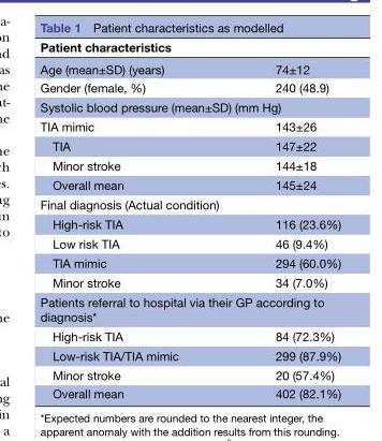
<table><thead><tr><td>Patient characteristics</td><td></td></tr></thead><tbody><tr><td>Age (mean±SD) (years)</td><td>74±12</td></tr><tr><td>Gender (female, %)</td><td>240 (48.9)</td></tr><tr><td colspan="2">Systolic blood pressure (mean±SD) (mm Hg)</td></tr><tr><td>TIA mimic</td><td>143±26</td></tr><tr><td>TIA</td><td>147±22</td></tr><tr><td>Minor stroke</td><td>144±18</td></tr><tr><td>Overall mean</td><td>145±24</td></tr><tr><td colspan="2">Final diagnosis (Actual condition)</td></tr><tr><td>High-risk TIA</td><td>116 (23.6%)</td></tr><tr><td>Low risk TIA</td><td>46 (9.4%)</td></tr><tr><td>TIA mimic</td><td>294 (60.0%)</td></tr><tr><td>Minor stroke</td><td>34 (7.0%)</td></tr><tr><td colspan="2">Patients referral to hospital via their GP according to diagnosis*</td></tr><tr><td>High-risk TIA</td><td>84 (72.3%)</td></tr><tr><td>Low-risk TIA/TIA mimic</td><td>299 (87.9%)</td></tr><tr><td>Minor stroke</td><td>20 (57.4%)</td></tr><tr><td>Overall mean</td><td>402 (82.1%)</td></tr></tbody></table>